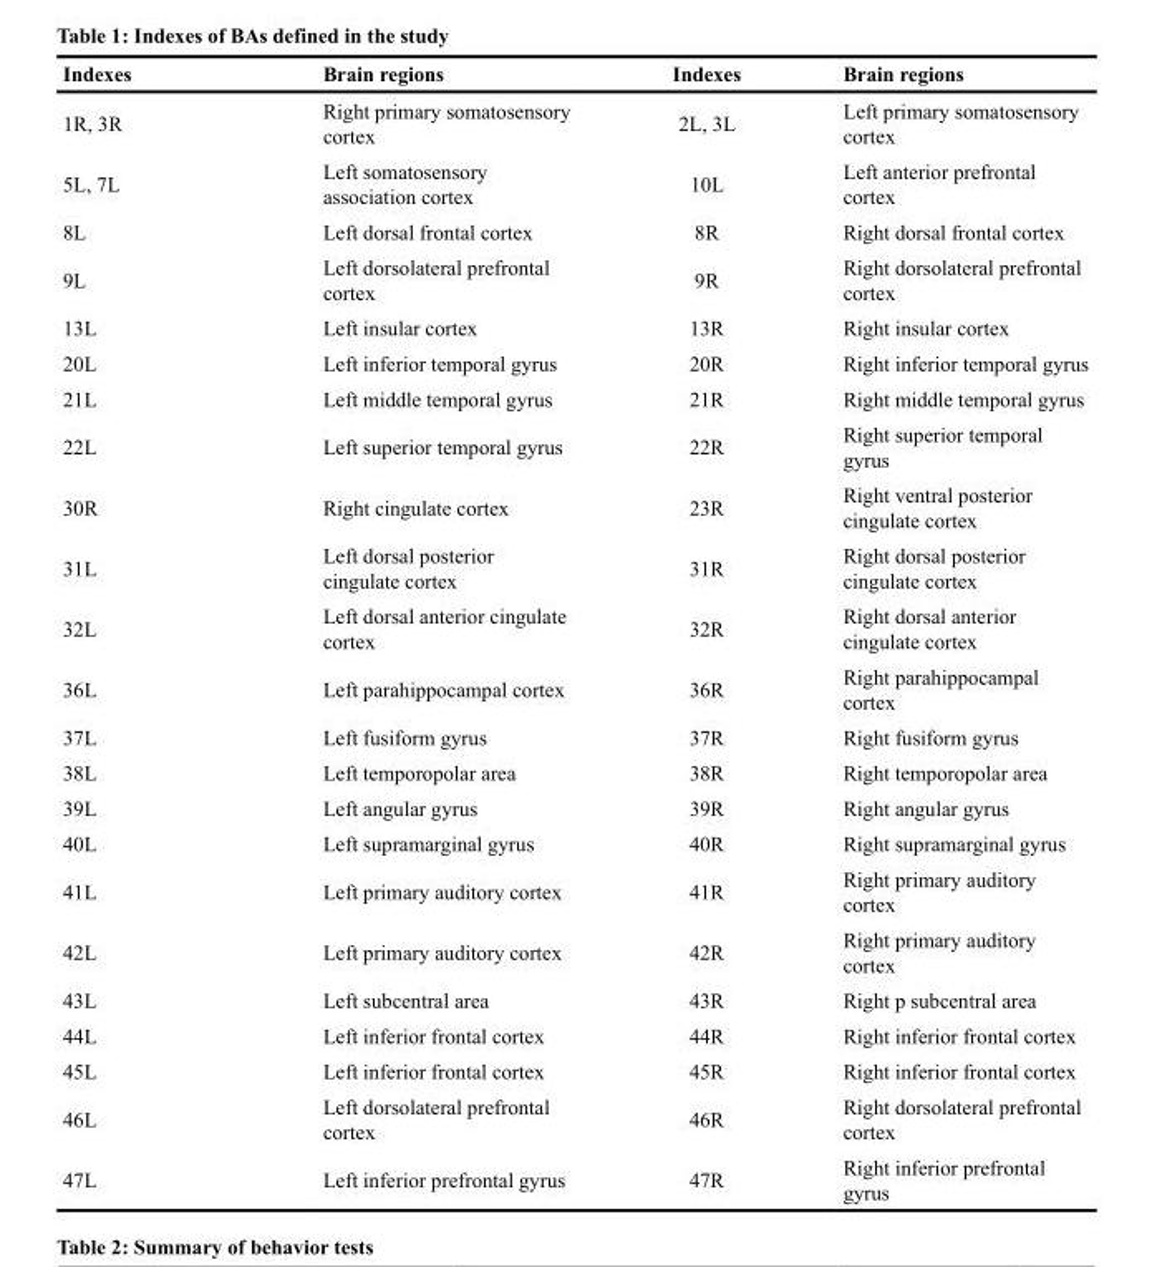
<table><thead><tr><td>Indexes</td><td>Brain regions</td><td>Indexes</td><td>Brain regions</td></tr></thead><tbody><tr><td>1R, 3R</td><td>Right primary somatosensory cortex</td><td>2L, 3L</td><td>Left primary somatosensory cortex</td></tr><tr><td>5L, 7L</td><td>Left somatosensory association cortex</td><td>10L</td><td>Left anterior prefrontal cortex</td></tr><tr><td>8L</td><td>Left dorsal frontal cortex</td><td>8R</td><td>Right dorsal frontal cortex</td></tr><tr><td>9L</td><td>Left dorsolateral prefrontal cortex</td><td>9R</td><td>Right dorsolateral prefrontal cortex</td></tr><tr><td>13L</td><td>Left insular cortex</td><td>13R</td><td>Right insular cortex</td></tr><tr><td>20L</td><td>Left inferior temporal gyrus</td><td>20R</td><td>Right inferior temporal gyrus</td></tr><tr><td>21L</td><td>Left middle temporal gyrus</td><td>21R</td><td>Right middle temporal gyrus</td></tr><tr><td>22L</td><td>Left superior temporal gyrus</td><td>22R</td><td>Right superior temporal gyrus</td></tr><tr><td>30R</td><td>Right cingulate cortex</td><td>23R</td><td>Right ventral posterior cingulate cortex</td></tr><tr><td>31L</td><td>Left dorsal posterior cingulate cortex</td><td>31R</td><td>Right dorsal posterior cingulate cortex</td></tr><tr><td>32L</td><td>Left dorsal anterior cingulate cortex</td><td>32R</td><td>Right dorsal anterior cingulate cortex</td></tr><tr><td>36L</td><td>Left parahippocampal cortex</td><td>36R</td><td>Right parahippocampal cortex</td></tr><tr><td>37L</td><td>Left fusiform gyrus</td><td>37R</td><td>Right fusiform gyrus</td></tr><tr><td>38L</td><td>Left temporopolar area</td><td>38R</td><td>Right temporopolar area</td></tr><tr><td>39L</td><td>Left angular gyrus</td><td>39R</td><td>Right angular gyrus</td></tr><tr><td>40L</td><td>Left supramarginal gyrus</td><td>40R</td><td>Right supramarginal gyrus</td></tr><tr><td>41L</td><td>Left primary auditory cortex</td><td>41R</td><td>Right primary auditory cortex</td></tr><tr><td>42L</td><td>Left primary auditory cortex</td><td>42R</td><td>Right primary auditory cortex</td></tr><tr><td>43L</td><td>Left subcentral area</td><td>43R</td><td>Right p subcentral area</td></tr><tr><td>44L</td><td>Left inferior frontal cortex</td><td>44R</td><td>Right inferior frontal cortex</td></tr><tr><td>45L</td><td>Left inferior frontal cortex</td><td>45R</td><td>Right inferior frontal cortex</td></tr><tr><td>46L</td><td>Left dorsolateral prefrontal cortex</td><td>46R</td><td>Right dorsolateral prefrontal cortex</td></tr><tr><td>47L</td><td>Left inferior prefrontal gyrus</td><td>47R</td><td>Right inferior prefrontal gyrus</td></tr></tbody></table>